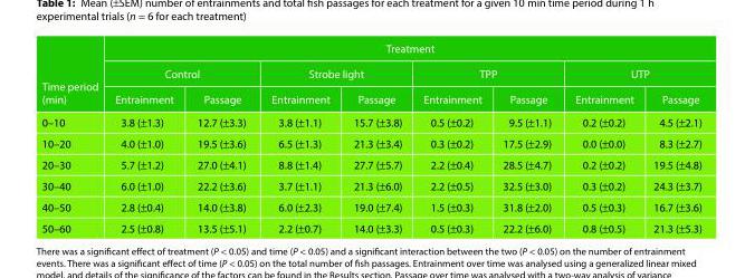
<table><thead><tr><td rowspan="3">Time period (min)</td><td colspan="8">Treatment</td></tr><tr><td colspan="2">Control</td><td colspan="2">Strobe light</td><td colspan="2">TPP</td><td colspan="2">UTP</td></tr><tr><td>Entrainment</td><td>Passage</td><td>Entrainment</td><td>Passage</td><td>Entrainment</td><td>Passage</td><td>Entrainment</td><td>Passage</td></tr></thead><tbody><tr><td>0–10</td><td>3.8 (±1.3)</td><td>12.7 (±3.3)</td><td>3.8 (±1.1)</td><td>15.7 (±3.8)</td><td>0.5 (±0.2)</td><td>9.5 (±1.1)</td><td>0.2 (±0.2)</td><td>4.5 (±2.1)</td></tr><tr><td>10–20</td><td>4.0 (±1.0)</td><td>19.5 (±3.6)</td><td>6.5 (±1.3)</td><td>21.3 (±3.4)</td><td>0.3 (±0.2)</td><td>17.5 (±2.9)</td><td>0.0 (±0.0)</td><td>8.3 (±2.7)</td></tr><tr><td>20–30</td><td>5.7 (±1.2)</td><td>27.0 (±4.1)</td><td>8.8 (±1.4)</td><td>27.7 (±5.7)</td><td>2.2 (±0.4)</td><td>28.5 (±4.7)</td><td>0.2 (±0.2)</td><td>19.5 (±4.8)</td></tr><tr><td>30–40</td><td>6.0 (±1.0)</td><td>22.2 (±3.6)</td><td>3.7 (±1.1)</td><td>21.3 (±6.0)</td><td>2.2 (±0.5)</td><td>32.5 (±3.0)</td><td>0.3 (±0.2)</td><td>24.3 (±3.7)</td></tr><tr><td>40–50</td><td>2.8 (±0.4)</td><td>14.0 (±3.8)</td><td>6.0 (±2.3)</td><td>19.0 (±7.4)</td><td>1.5 (±0.3)</td><td>31.8 (±2.0)</td><td>0.5 (±0.3)</td><td>16.7 (±3.6)</td></tr><tr><td>50–60</td><td>2.5 (±0.8)</td><td>13.5 (±5.1)</td><td>2.2 (±0.7)</td><td>14.0 (±3.3)</td><td>0.5 (±0.3)</td><td>22.2 (±6.0)</td><td>0.8 (±0.5)</td><td>21.3 (±5.3)</td></tr></tbody></table>